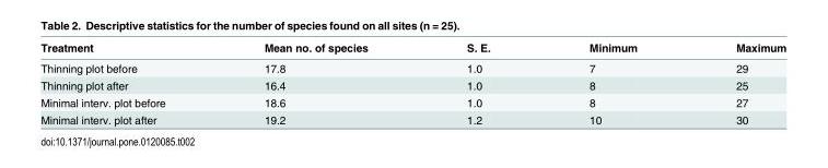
<table><thead><tr><td>Treatment</td><td>Mean no. of species</td><td>S. E.</td><td>Minimum</td><td>Maximum</td></tr></thead><tbody><tr><td>Thinning plot before</td><td>17.8</td><td>1.0</td><td>7</td><td>29</td></tr><tr><td>Thinning plot after</td><td>16.4</td><td>1.0</td><td>8</td><td>25</td></tr><tr><td>Minimal interv. plot before</td><td>18.6</td><td>1.0</td><td>8</td><td>27</td></tr><tr><td>Minimal interv. plot after</td><td>19.2</td><td>1.2</td><td>10</td><td>30</td></tr></tbody></table>